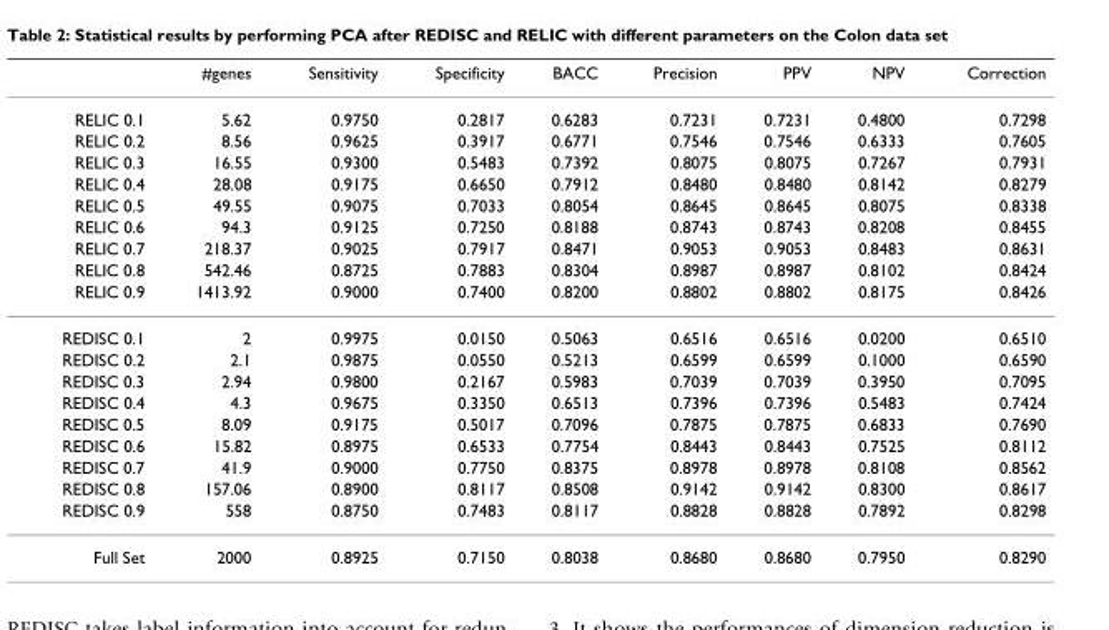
<table><thead><tr><td></td><td>#genes</td><td>Sensitivity</td><td>Specificity</td><td>BACC</td><td>Precision</td><td>PPV</td><td>NPV</td><td>Correction</td></tr></thead><tbody><tr><td>RELIC 0.1</td><td>5.62</td><td>0.9750</td><td>0.2817</td><td>0.6283</td><td>0.7231</td><td>0.7231</td><td>0.4800</td><td>0.7298</td></tr><tr><td>RELIC 0.2</td><td>8.56</td><td>0.9625</td><td>0.3917</td><td>0.6771</td><td>0.7546</td><td>0.7546</td><td>0.6333</td><td>0.7605</td></tr><tr><td>RELIC 0.3</td><td>16.55</td><td>0.9300</td><td>0.5483</td><td>0.7392</td><td>0.8075</td><td>0.8075</td><td>0.7267</td><td>0.7931</td></tr><tr><td>RELIC 0.4</td><td>28.08</td><td>0.9175</td><td>0.6650</td><td>0.7912</td><td>0.8480</td><td>0.8480</td><td>0.8142</td><td>0.8279</td></tr><tr><td>RELIC 0.5</td><td>49.55</td><td>0.9075</td><td>0.7033</td><td>0.8054</td><td>0.8645</td><td>0.8645</td><td>0.8075</td><td>0.8338</td></tr><tr><td>RELIC 0.6</td><td>94.3</td><td>0.9125</td><td>0.7250</td><td>0.8188</td><td>0.8743</td><td>0.8743</td><td>0.8208</td><td>0.8455</td></tr><tr><td>RELIC 0.7</td><td>218.37</td><td>0.9025</td><td>0.7917</td><td>0.8471</td><td>0.9053</td><td>0.9053</td><td>0.8483</td><td>0.8631</td></tr><tr><td>RELIC 0.8</td><td>542.46</td><td>0.8725</td><td>0.7883</td><td>0.8304</td><td>0.8987</td><td>0.8987</td><td>0.8102</td><td>0.8424</td></tr><tr><td>RELIC 0.9</td><td>1413.92</td><td>0.9000</td><td>0.7400</td><td>0.8200</td><td>0.8802</td><td>0.8802</td><td>0.8175</td><td>0.8426</td></tr><tr><td>REDISC 0.1</td><td>2</td><td>0.9975</td><td>0.0150</td><td>0.5063</td><td>0.6516</td><td>0.6516</td><td>0.0200</td><td>0.6510</td></tr><tr><td>REDISC 0.2</td><td>2.1</td><td>0.9875</td><td>0.0550</td><td>0.5213</td><td>0.6599</td><td>0.6599</td><td>0.1000</td><td>0.6590</td></tr><tr><td>REDISC 0.3</td><td>2.94</td><td>0.9800</td><td>0.2167</td><td>0.5983</td><td>0.7039</td><td>0.7039</td><td>0.3950</td><td>0.7095</td></tr><tr><td>REDISC 0.4</td><td>4.3</td><td>0.9675</td><td>0.3350</td><td>0.6513</td><td>0.7396</td><td>0.7396</td><td>0.5483</td><td>0.7424</td></tr><tr><td>REDISC 0.5</td><td>8.09</td><td>0.9175</td><td>0.5017</td><td>0.7096</td><td>0.7875</td><td>0.7875</td><td>0.6833</td><td>0.7690</td></tr><tr><td>REDISC 0.6</td><td>15.82</td><td>0.8975</td><td>0.6533</td><td>0.7754</td><td>0.8443</td><td>0.8443</td><td>0.7525</td><td>0.8112</td></tr><tr><td>REDISC 0.7</td><td>41.9</td><td>0.9000</td><td>0.7750</td><td>0.8375</td><td>0.8978</td><td>0.8978</td><td>0.8108</td><td>0.8562</td></tr><tr><td>REDISC 0.8</td><td>157.06</td><td>0.8900</td><td>0.8117</td><td>0.8508</td><td>0.9142</td><td>0.9142</td><td>0.8300</td><td>0.8617</td></tr><tr><td>REDISC 0.9</td><td>558</td><td>0.8750</td><td>0.7483</td><td>0.8117</td><td>0.8828</td><td>0.8828</td><td>0.7892</td><td>0.8298</td></tr><tr><td>Full Set</td><td>2000</td><td>0.8925</td><td>0.7150</td><td>0.8038</td><td>0.8680</td><td>0.8680</td><td>0.7950</td><td>0.8290</td></tr></tbody></table>